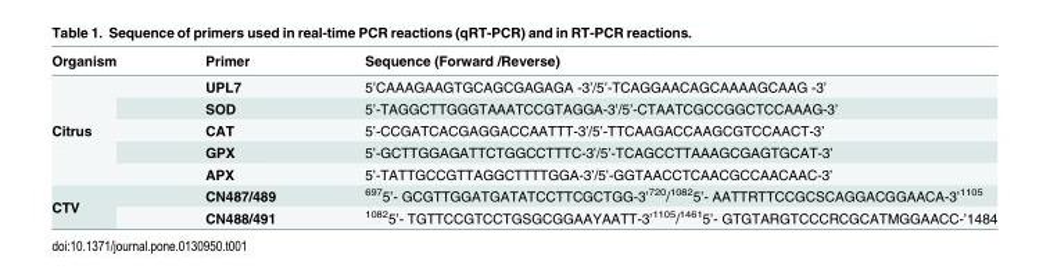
<table><thead><tr><td>Organism</td><td>Primer</td><td>Sequence (Forward /Reverse)</td></tr></thead><tbody><tr><td rowspan="5">Citrus</td><td>UPL7</td><td>5’CAAAGAAGTGCAGCGAGAGA -3’/5’-TCAGGAACAGCAAAAGCAAG -3’</td></tr><tr><td>SOD</td><td>5’-TAGGCTTGGGTAAATCCGTAGGA-3’/5’-CTAATCGCCGGCTCCAAAG-3’</td></tr><tr><td>CAT</td><td>5’-CCGATCACGAGGACCAATTT-3’/5’-TTCAAGACCAAGCGTCCAACT-3’</td></tr><tr><td>GPX</td><td>5’-GCTTGGAGATTCTGGCCTTTC-3’/5’-TCAGCCTTAAAGCGAGTGCAT-3’</td></tr><tr><td>APX</td><td>5’-TATTGCCGTTAGGCTTTTGGA-3’/5’-GGTAACCTCAACGCCAACAAC-3’</td></tr><tr><td rowspan="2">CTV</td><td>CN487/489</td><td><sup>697</sup>5’- GCGTTGGATGATATCCTTCGCTGG-3’<sup>720</sup>/<sup>1082</sup>5’- AATTRTTCCGCSCAGGACGGAACA-3’<sup>1105</sup></td></tr><tr><td>CN488/491</td><td><sup>1082</sup>5’- TGTTCCGTCCTGSGCGGAAYAATT-3’<sup>1105</sup>/<sup>1461</sup>5’- GTGTARGTCCCRCGCATMGGAACC-’1484</td></tr></tbody></table>